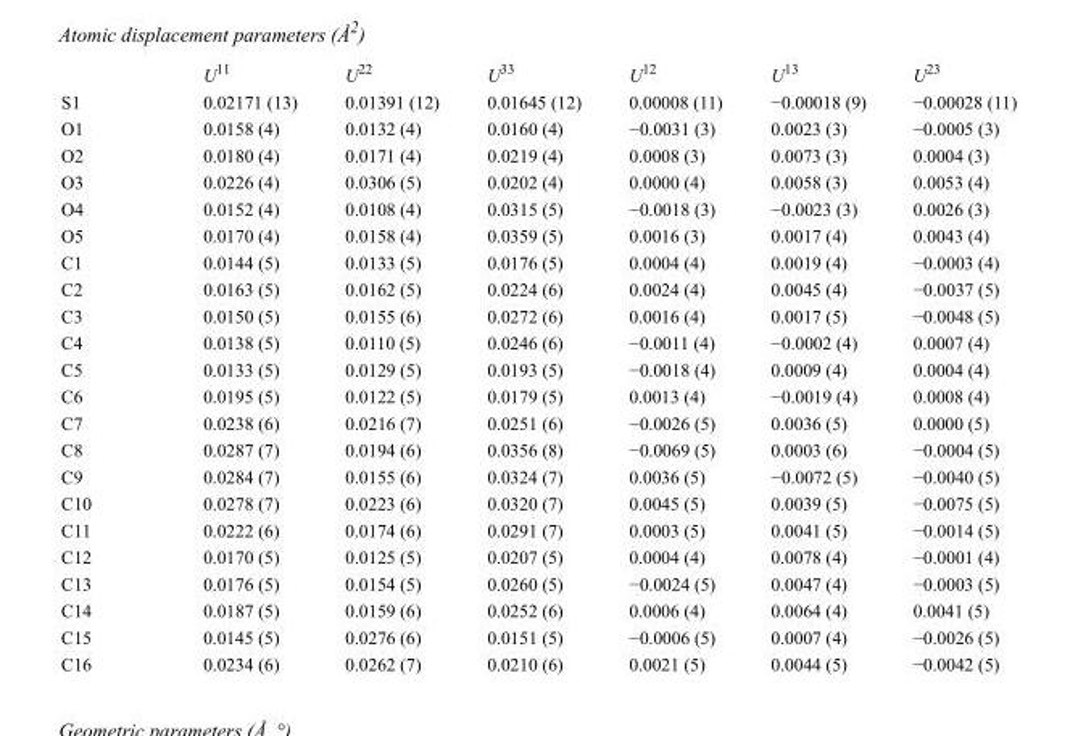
<table><thead><tr><td></td><td>U<sup>11</sup></td><td>U<sup>22</sup></td><td>U<sup>33</sup></td><td>U<sup>12</sup></td><td>U<sup>13</sup></td><td>U<sup>23</sup></td></tr></thead><tbody><tr><td>S1</td><td>0.02171 (13)</td><td>0.01391 (12)</td><td>0.01645 (12)</td><td>0.00008 (11)</td><td>−0.00018 (9)</td><td>−0.00028 (11)</td></tr><tr><td>O1</td><td>0.0158 (4)</td><td>0.0132 (4)</td><td>0.0160 (4)</td><td>−0.0031 (3)</td><td>0.0023 (3)</td><td>−0.0005 (3)</td></tr><tr><td>O2</td><td>0.0180 (4)</td><td>0.0171 (4)</td><td>0.0219 (4)</td><td>0.0008 (3)</td><td>0.0073 (3)</td><td>0.0004 (3)</td></tr><tr><td>O3</td><td>0.0226 (4)</td><td>0.0306 (5)</td><td>0.0202 (4)</td><td>0.0000 (4)</td><td>0.0058 (3)</td><td>0.0053 (4)</td></tr><tr><td>O4</td><td>0.0152 (4)</td><td>0.0108 (4)</td><td>0.0315 (5)</td><td>−0.0018 (3)</td><td>−0.0023 (3)</td><td>0.0026 (3)</td></tr><tr><td>O5</td><td>0.0170 (4)</td><td>0.0158 (4)</td><td>0.0359 (5)</td><td>0.0016 (3)</td><td>0.0017 (4)</td><td>0.0043 (4)</td></tr><tr><td>C1</td><td>0.0144 (5)</td><td>0.0133 (5)</td><td>0.0176 (5)</td><td>0.0004 (4)</td><td>0.0019 (4)</td><td>−0.0003 (4)</td></tr><tr><td>C2</td><td>0.0163 (5)</td><td>0.0162 (5)</td><td>0.0224 (6)</td><td>0.0024 (4)</td><td>0.0045 (4)</td><td>−0.0037 (5)</td></tr><tr><td>C3</td><td>0.0150 (5)</td><td>0.0155 (6)</td><td>0.0272 (6)</td><td>0.0016 (4)</td><td>0.0017 (5)</td><td>−0.0048 (5)</td></tr><tr><td>C4</td><td>0.0138 (5)</td><td>0.0110 (5)</td><td>0.0246 (6)</td><td>−0.0011 (4)</td><td>−0.0002 (4)</td><td>0.0007 (4)</td></tr><tr><td>C5</td><td>0.0133 (5)</td><td>0.0129 (5)</td><td>0.0193 (5)</td><td>−0.0018 (4)</td><td>0.0009 (4)</td><td>0.0004 (4)</td></tr><tr><td>C6</td><td>0.0195 (5)</td><td>0.0122 (5)</td><td>0.0179 (5)</td><td>0.0013 (4)</td><td>−0.0019 (4)</td><td>0.0008 (4)</td></tr><tr><td>C7</td><td>0.0238 (6)</td><td>0.0216 (7)</td><td>0.0251 (6)</td><td>−0.0026 (5)</td><td>0.0036 (5)</td><td>0.0000 (5)</td></tr><tr><td>C8</td><td>0.0287 (7)</td><td>0.0194 (6)</td><td>0.0356 (8)</td><td>−0.0069 (5)</td><td>0.0003 (6)</td><td>−0.0004 (5)</td></tr><tr><td>C9</td><td>0.0284 (7)</td><td>0.0155 (6)</td><td>0.0324 (7)</td><td>0.0036 (5)</td><td>−0.0072 (5)</td><td>−0.0040 (5)</td></tr><tr><td>C10</td><td>0.0278 (7)</td><td>0.0223 (6)</td><td>0.0320 (7)</td><td>0.0045 (5)</td><td>0.0039 (5)</td><td>−0.0075 (5)</td></tr><tr><td>C11</td><td>0.0222 (6)</td><td>0.0174 (6)</td><td>0.0291 (7)</td><td>0.0003 (5)</td><td>0.0041 (5)</td><td>−0.0014 (5)</td></tr><tr><td>C12</td><td>0.0170 (5)</td><td>0.0125 (5)</td><td>0.0207 (5)</td><td>0.0004 (4)</td><td>0.0078 (4)</td><td>−0.0001 (4)</td></tr><tr><td>C13</td><td>0.0176 (5)</td><td>0.0154 (5)</td><td>0.0260 (5)</td><td>−0.0024 (5)</td><td>0.0047 (4)</td><td>−0.0003 (5)</td></tr><tr><td>C14</td><td>0.0187 (5)</td><td>0.0159 (6)</td><td>0.0252 (6)</td><td>0.0006 (4)</td><td>0.0064 (4)</td><td>0.0041 (5)</td></tr><tr><td>C15</td><td>0.0145 (5)</td><td>0.0276 (6)</td><td>0.0151 (5)</td><td>−0.0006 (5)</td><td>0.0007 (4)</td><td>−0.0026 (5)</td></tr><tr><td>C16</td><td>0.0234 (6)</td><td>0.0262 (7)</td><td>0.0210 (6)</td><td>0.0021 (5)</td><td>0.0044 (5)</td><td>−0.0042 (5)</td></tr></tbody></table>